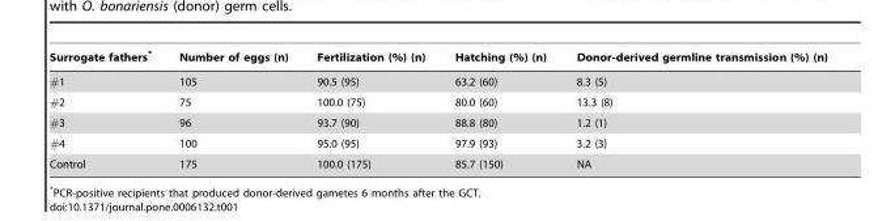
<table><thead><tr><td>Surrogate fathers*</td><td>Number of eggs (n)</td><td>Fertilization (%) (n)</td><td>Hatching (%) (n)</td><td>Donor-derived germline transmission (%) (n)</td></tr></thead><tbody><tr><td>#1</td><td>105</td><td>90.5 (95)</td><td>63.2 (60)</td><td>8.3 (5)</td></tr><tr><td>#2</td><td>75</td><td>100.0 (75)</td><td>80.0 (60)</td><td>13.3 (8)</td></tr><tr><td>#3</td><td>96</td><td>93.7 (90)</td><td>88.8 (80)</td><td>1.2 (1)</td></tr><tr><td>#4</td><td>100</td><td>95.0 (95)</td><td>97.9 (93)</td><td>3.2 (3)</td></tr><tr><td>Control</td><td>175</td><td>100.0 (175)</td><td>85.7 (150)</td><td>NA</td></tr></tbody></table>